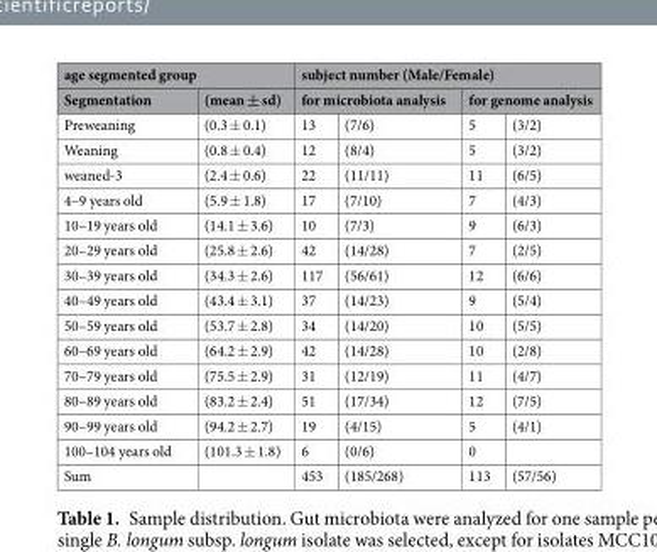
<table><thead><tr><td colspan="2">age segmented group</td><td colspan="4">subject number (Male/Female)</td></tr><tr><td rowspan="2">Segmentation Preweaning</td><td rowspan="2">(mean ± sd) (0.3 ± 0.1)</td><td colspan="2">for microbiota analysis</td><td colspan="2">for genome analysis</td></tr><tr><td>13</td><td>(7/6)</td><td>5</td><td>(3/2)</td></tr></thead><tbody><tr><td>Weaning</td><td>(0.8 ± 0.4)</td><td>12</td><td>(8/4)</td><td>5</td><td>(3/2)</td></tr><tr><td>weaned-3</td><td>(2.4 ± 0.6)</td><td>22</td><td>(11/11)</td><td>11</td><td>(6/5)</td></tr><tr><td>4–9 years old</td><td>(5.9 ± 1.8)</td><td>17</td><td>(7/10)</td><td>7</td><td>(4/3)</td></tr><tr><td>10–19 years old</td><td>(14.1 ± 3.6)</td><td>10</td><td>(7/3)</td><td>9</td><td>(6/3)</td></tr><tr><td>20–29 years old</td><td>(25.8 ± 2.6)</td><td>42</td><td>(14/28)</td><td>7</td><td>(2/5)</td></tr><tr><td>30–39 years old</td><td>(34.3 ± 2.6)</td><td>117</td><td>(56/61)</td><td>12</td><td>(6/6)</td></tr><tr><td>40–49 years old</td><td>(43.4 ± 3.1)</td><td>37</td><td>(14/23)</td><td>9</td><td>(5/4)</td></tr><tr><td>50–59 years old</td><td>(53.7 ± 2.8)</td><td>34</td><td>(14/20)</td><td>10</td><td>(5/5)</td></tr><tr><td>60–69 years old</td><td>(64.2 ± 2.9)</td><td>42</td><td>(14/28)</td><td>10</td><td>(2/8)</td></tr><tr><td>70–79 years old</td><td>(75.5 ± 2.9)</td><td>31</td><td>(12/19)</td><td>11</td><td>(4/7)</td></tr><tr><td>80–89 years old</td><td>(83.2 ± 2.4)</td><td>51</td><td>(17/34)</td><td>12</td><td>(7/5)</td></tr><tr><td>90–99 years old</td><td>(94.2 ± 2.7)</td><td>19</td><td>(4/15)</td><td>5</td><td>(4/1)</td></tr><tr><td>100–104 years old</td><td>(101.3 ± 1.8)</td><td>6</td><td>(0/6)</td><td>0</td><td></td></tr><tr><td>Sum</td><td></td><td>453</td><td>(185/268)</td><td>113</td><td>(57/56)</td></tr></tbody></table>